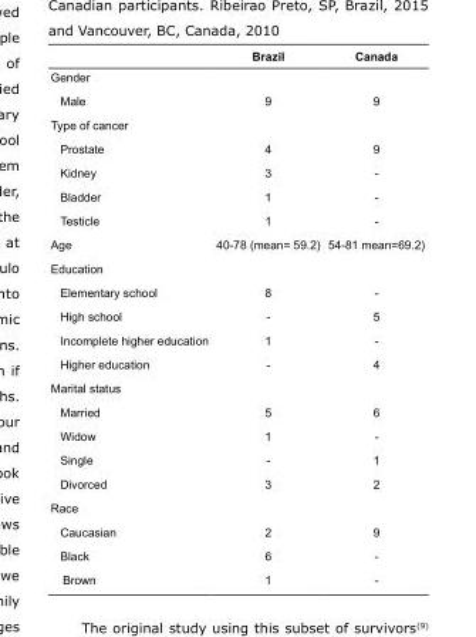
<table><thead><tr><td></td><td>Brazil</td><td>Canada</td></tr></thead><tbody><tr><td colspan="3">Gender</td></tr><tr><td>Male</td><td>9</td><td>9</td></tr><tr><td colspan="3">Type of cancer</td></tr><tr><td>Prostate</td><td>4</td><td>9</td></tr><tr><td>Kidney</td><td>3</td><td>-</td></tr><tr><td>Bladder</td><td>1</td><td>-</td></tr><tr><td>Testicle</td><td>1</td><td>-</td></tr><tr><td>Age</td><td>40-78 (mean= 59.2)</td><td>54-81 mean=69.2)</td></tr><tr><td colspan="3">Education</td></tr><tr><td>Elementary school</td><td>8</td><td>-</td></tr><tr><td>High school</td><td>-</td><td>5</td></tr><tr><td>Incomplete higher education</td><td>1</td><td>-</td></tr><tr><td>Higher education</td><td>-</td><td>4</td></tr><tr><td colspan="3">Marital status</td></tr><tr><td>Married</td><td>5</td><td>6</td></tr><tr><td>Widow</td><td>1</td><td>-</td></tr><tr><td>Single</td><td>-</td><td>1</td></tr><tr><td>Divorced</td><td>3</td><td>2</td></tr><tr><td colspan="3">Race</td></tr><tr><td>Caucasian</td><td>2</td><td>9</td></tr><tr><td>Black</td><td>6</td><td>-</td></tr><tr><td>Brown</td><td>1</td><td>-</td></tr></tbody></table>